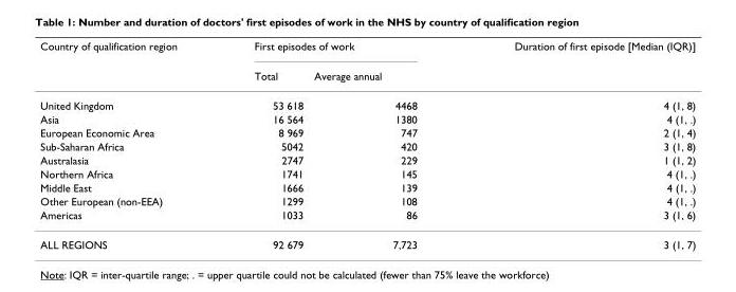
<table><thead><tr><td rowspan="2">Country of qualification region</td><td colspan="2">First episodes of work</td><td rowspan="2">Duration of first episode [Median (IQR)]</td></tr><tr><td>Total</td><td>Average annual</td></tr></thead><tbody><tr><td>United Kingdom</td><td>53 618</td><td>4468</td><td>4 (1, 8)</td></tr><tr><td>Asia</td><td>16 564</td><td>1380</td><td>4 (1, .)</td></tr><tr><td>European Economic Area</td><td>8 969</td><td>747</td><td>2 (1, 4)</td></tr><tr><td>Sub-Saharan Africa</td><td>5042</td><td>420</td><td>3 (1, 8)</td></tr><tr><td>Australasia</td><td>2747</td><td>229</td><td>1 (1, 2)</td></tr><tr><td>Northern Africa</td><td>1741</td><td>145</td><td>4 (1, .)</td></tr><tr><td>Middle East</td><td>1666</td><td>139</td><td>4 (1, .)</td></tr><tr><td>Other European (non-EEA)</td><td>1299</td><td>108</td><td>4 (1, .)</td></tr><tr><td>Americas</td><td>1033</td><td>86</td><td>3 (1, 6)</td></tr><tr><td>ALL REGIONS</td><td>92 679</td><td>7,723</td><td>3 (1, 7)</td></tr></tbody></table>